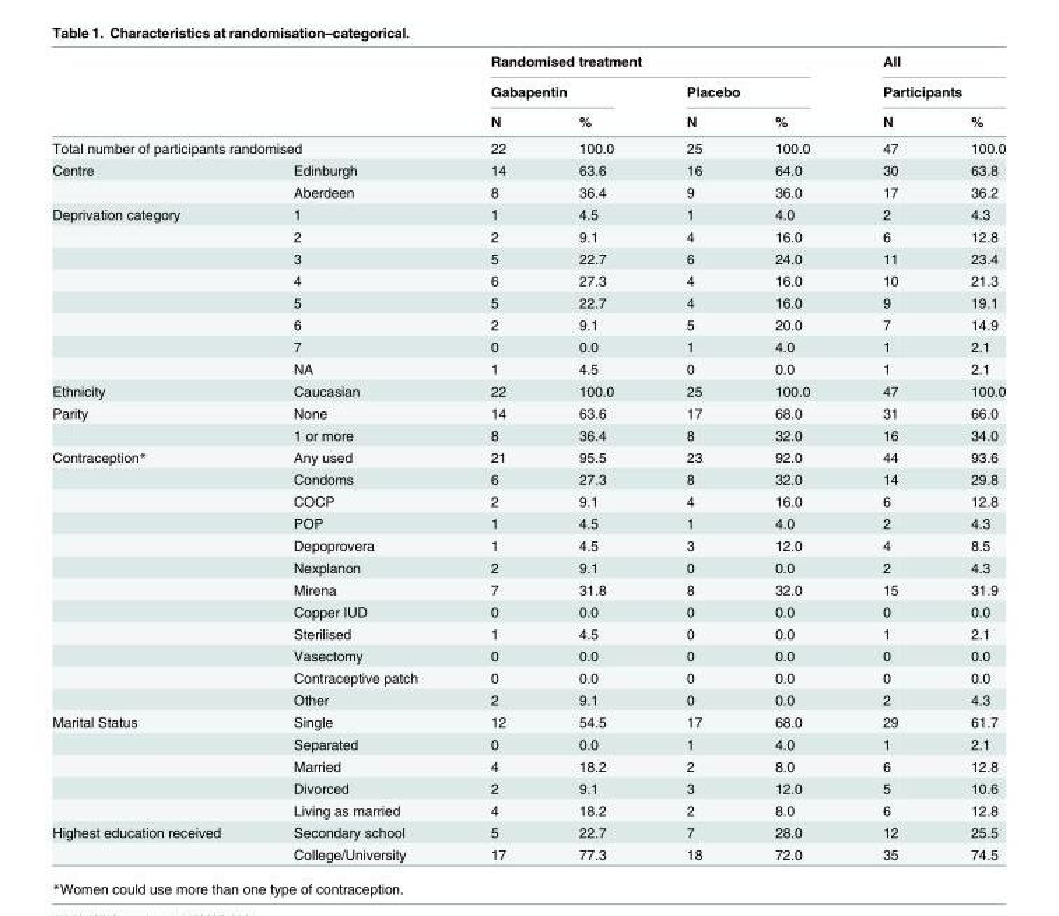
<table><thead><tr><td rowspan="3"></td><td rowspan="3"></td><td colspan="4">Randomised treatment</td><td rowspan="2" colspan="2">All Participants</td></tr><tr><td colspan="2">Gabapentin</td><td colspan="2">Placebo</td></tr><tr><td>N</td><td>%</td><td>N</td><td>%</td><td>N</td><td>%</td></tr></thead><tbody><tr><td colspan="2">Total number of participants randomised</td><td>22</td><td>100.0</td><td>25</td><td>100.0</td><td>47</td><td>100.0</td></tr><tr><td rowspan="2">Centre</td><td>Edinburgh</td><td>14</td><td>63.6</td><td>16</td><td>64.0</td><td>30</td><td>63.8</td></tr><tr><td>Aberdeen</td><td>8</td><td>36.4</td><td>9</td><td>36.0</td><td>17</td><td>36.2</td></tr><tr><td rowspan="8">Deprivation category</td><td>1</td><td>1</td><td>4.5</td><td>1</td><td>4.0</td><td>2</td><td>4.3</td></tr><tr><td>2</td><td>2</td><td>9.1</td><td>4</td><td>16.0</td><td>6</td><td>12.8</td></tr><tr><td>3</td><td>5</td><td>22.7</td><td>6</td><td>24.0</td><td>11</td><td>23.4</td></tr><tr><td>4</td><td>6</td><td>27.3</td><td>4</td><td>16.0</td><td>10</td><td>21.3</td></tr><tr><td>5</td><td>5</td><td>22.7</td><td>4</td><td>16.0</td><td>9</td><td>19.1</td></tr><tr><td>6</td><td>2</td><td>9.1</td><td>5</td><td>20.0</td><td>7</td><td>14.9</td></tr><tr><td>7</td><td>0</td><td>0.0</td><td>1</td><td>4.0</td><td>1</td><td>2.1</td></tr><tr><td>NA</td><td>1</td><td>4.5</td><td>0</td><td>0.0</td><td>1</td><td>2.1</td></tr><tr><td>Ethnicity</td><td>Caucasian</td><td>22</td><td>100.0</td><td>25</td><td>100.0</td><td>47</td><td>100.0</td></tr><tr><td rowspan="2">Parity</td><td>None</td><td>14</td><td>63.6</td><td>17</td><td>68.0</td><td>31</td><td>66.0</td></tr><tr><td>1 or more</td><td>8</td><td>36.4</td><td>8</td><td>32.0</td><td>16</td><td>34.0</td></tr><tr><td rowspan="12">Contraception*</td><td>Any used</td><td>21</td><td>95.5</td><td>23</td><td>92.0</td><td>44</td><td>93.6</td></tr><tr><td>Condoms</td><td>6</td><td>27.3</td><td>8</td><td>32.0</td><td>14</td><td>29.8</td></tr><tr><td>COCP</td><td>2</td><td>9.1</td><td>4</td><td>16.0</td><td>6</td><td>12.8</td></tr><tr><td>POP</td><td>1</td><td>4.5</td><td>1</td><td>4.0</td><td>2</td><td>4.3</td></tr><tr><td>Depoprovera</td><td>1</td><td>4.5</td><td>3</td><td>12.0</td><td>4</td><td>8.5</td></tr><tr><td>Nexplanon</td><td>2</td><td>9.1</td><td>0</td><td>0.0</td><td>2</td><td>4.3</td></tr><tr><td>Mirena</td><td>7</td><td>31.8</td><td>8</td><td>32.0</td><td>15</td><td>31.9</td></tr><tr><td>Copper IUD</td><td>0</td><td>0.0</td><td>0</td><td>0.0</td><td>0</td><td>0.0</td></tr><tr><td>Sterilised</td><td>1</td><td>4.5</td><td>0</td><td>0.0</td><td>1</td><td>2.1</td></tr><tr><td>Vasectomy</td><td>0</td><td>0.0</td><td>0</td><td>0.0</td><td>0</td><td>0.0</td></tr><tr><td>Contraceptive patch</td><td>0</td><td>0.0</td><td>0</td><td>0.0</td><td>0</td><td>0.0</td></tr><tr><td>Other</td><td>2</td><td>9.1</td><td>0</td><td>0.0</td><td>2</td><td>4.3</td></tr><tr><td rowspan="5">Marital Status</td><td>Single</td><td>12</td><td>54.5</td><td>17</td><td>68.0</td><td>29</td><td>61.7</td></tr><tr><td>Separated</td><td>0</td><td>0.0</td><td>1</td><td>4.0</td><td>1</td><td>2.1</td></tr><tr><td>Married</td><td>4</td><td>18.2</td><td>2</td><td>8.0</td><td>6</td><td>12.8</td></tr><tr><td>Divorced</td><td>2</td><td>9.1</td><td>3</td><td>12.0</td><td>5</td><td>10.6</td></tr><tr><td>Living as married</td><td>4</td><td>18.2</td><td>2</td><td>8.0</td><td>6</td><td>12.8</td></tr><tr><td rowspan="2">Highest education received</td><td>Secondary school</td><td>5</td><td>22.7</td><td>7</td><td>28.0</td><td>12</td><td>25.5</td></tr><tr><td>College/University</td><td>17</td><td>77.3</td><td>18</td><td>72.0</td><td>35</td><td>74.5</td></tr></tbody></table>